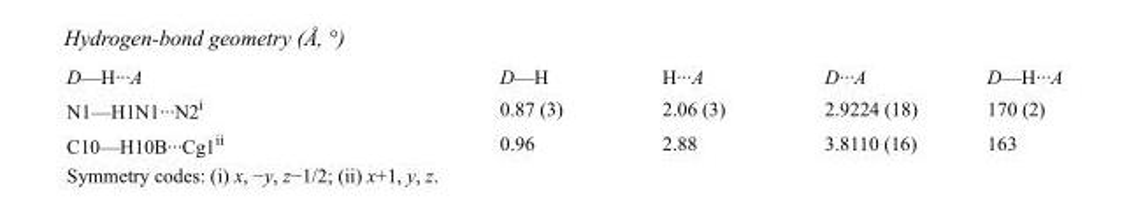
<table><tbody><tr><td>D—H···A</td><td>D—H</td><td>H···A</td><td>D···A</td><td>D—H···A</td></tr><tr><td>N1—H1N1···N2<sup>i</sup></td><td>0.87 (3)</td><td>2.06 (3)</td><td>2.9224 (18)</td><td>170 (2)</td></tr><tr><td>C10—H10B···Cg1<sup>ii</sup></td><td>0.96</td><td>2.88</td><td>3.8110 (16)</td><td>163</td></tr></tbody></table>